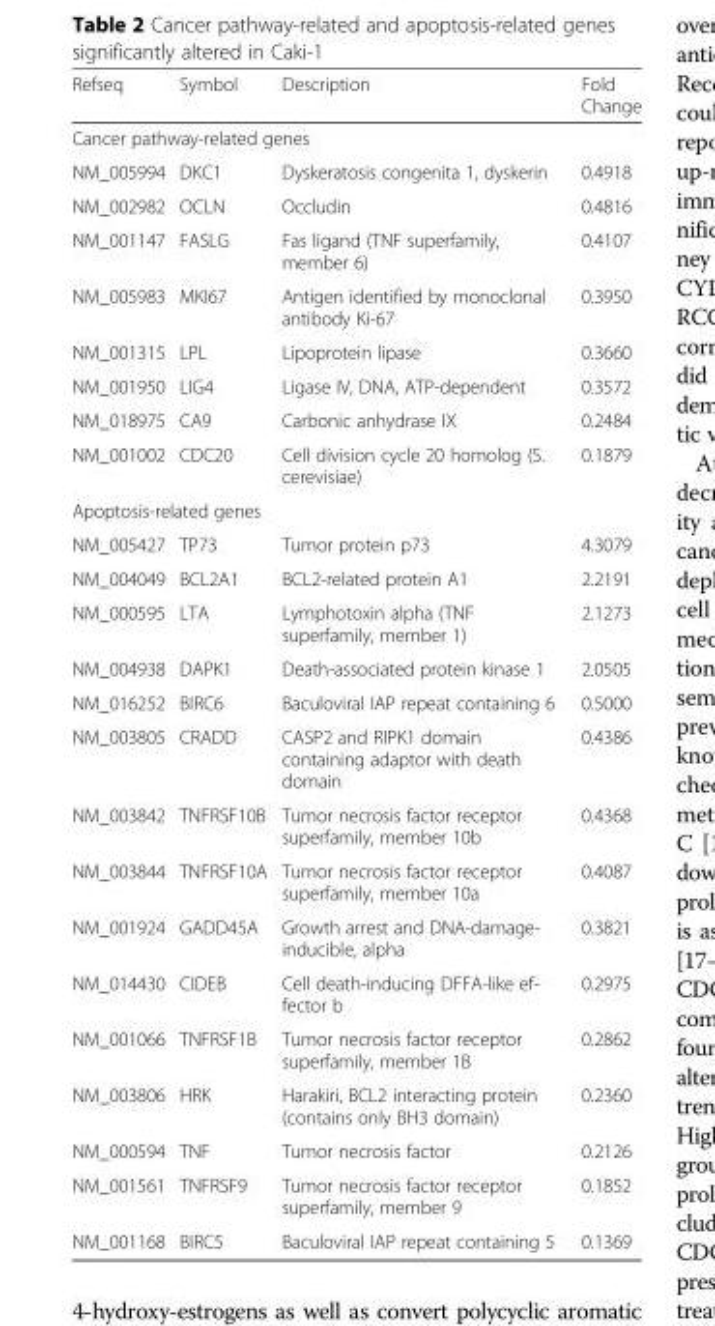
<table><thead><tr><td>Refseq</td><td>Symbol</td><td>Description</td><td>Fold Change</td></tr></thead><tbody><tr><td colspan="4">Cancer pathway-related genes</td></tr><tr><td>NM_005994</td><td>DKC1</td><td>Dyskeratosis congenita 1, dyskerin</td><td>0.4918</td></tr><tr><td>NM_002982</td><td>OCLN</td><td>Occludin</td><td>0.4816</td></tr><tr><td>NM_001147</td><td>FASLG</td><td>Fas ligand (TNF superfamily, member 6)</td><td>0.4107</td></tr><tr><td>NM_005983</td><td>MKI67</td><td>Antigen identified by monoclonal antibody Ki-67</td><td>0.3950</td></tr><tr><td>NM_001315</td><td>LPL</td><td>Lipoprotein lipase</td><td>0.3660</td></tr><tr><td>NM_001950</td><td>LIG4</td><td>Ligase IV, DNA, ATP-dependent</td><td>0.3572</td></tr><tr><td>NM_018975</td><td>CA9</td><td>Carbonic anhydrase IX</td><td>0.2484</td></tr><tr><td>NM_001002</td><td>CDC20</td><td>Cell division cycle 20 homolog (S. cerevisiae)</td><td>0.1879</td></tr><tr><td colspan="4">Apoptosis-related genes</td></tr><tr><td>NM_005427</td><td>TP73</td><td>Tumor protein p73</td><td>4.3079</td></tr><tr><td>NM_004049</td><td>BCL2A1</td><td>BCL2-related protein A1</td><td>2.2191</td></tr><tr><td>NM_000595</td><td>LTA</td><td>Lymphotoxin alpha (TNF superfamily, member 1)</td><td>2.1273</td></tr><tr><td>NM_004938</td><td>DAPK1</td><td>Death-associated protein kinase 1</td><td>2.0505</td></tr><tr><td>NM_016252</td><td>BIRC6</td><td>Baculoviral IAP repeat containing 6</td><td>0.5000</td></tr><tr><td>NM_003805</td><td>CRADD</td><td>CASP2 and RIPK1 domain containing adaptor with death domain</td><td>0.4386</td></tr><tr><td>NM_003842</td><td>TNFRSF10B</td><td>Tumor necrosis factor receptor superfamily, member 10b</td><td>0.4368</td></tr><tr><td>NM_003844</td><td>TNFRSF10A</td><td>Tumor necrosis factor receptor superfamily, member 10a</td><td>0.4087</td></tr><tr><td>NM_001924</td><td>GADD45A</td><td>Growth arrest and DNA-damage- inducible, alpha</td><td>0.3821</td></tr><tr><td>NM_014430</td><td>CIDEB</td><td>Cell death-inducing DFFA-like ef- fector b</td><td>0.2975</td></tr><tr><td>NM_001066</td><td>TNFRSF1B</td><td>Tumor necrosis factor receptor superfamily, member 1B</td><td>0.2862</td></tr><tr><td>NM_003806</td><td>HRK</td><td>Harakiri, BCL2 interacting protein (contains only BH3 domain)</td><td>0.2360</td></tr><tr><td>NM_000594</td><td>TNF</td><td>Tumor necrosis factor</td><td>0.2126</td></tr><tr><td>NM_001561</td><td>TNFRSF9</td><td>Tumor necrosis factor receptor superfamily, member 9</td><td>0.1852</td></tr><tr><td>NM_001168</td><td>BIRC5</td><td>Baculoviral IAP repeat containing 5</td><td>0.1369</td></tr></tbody></table>